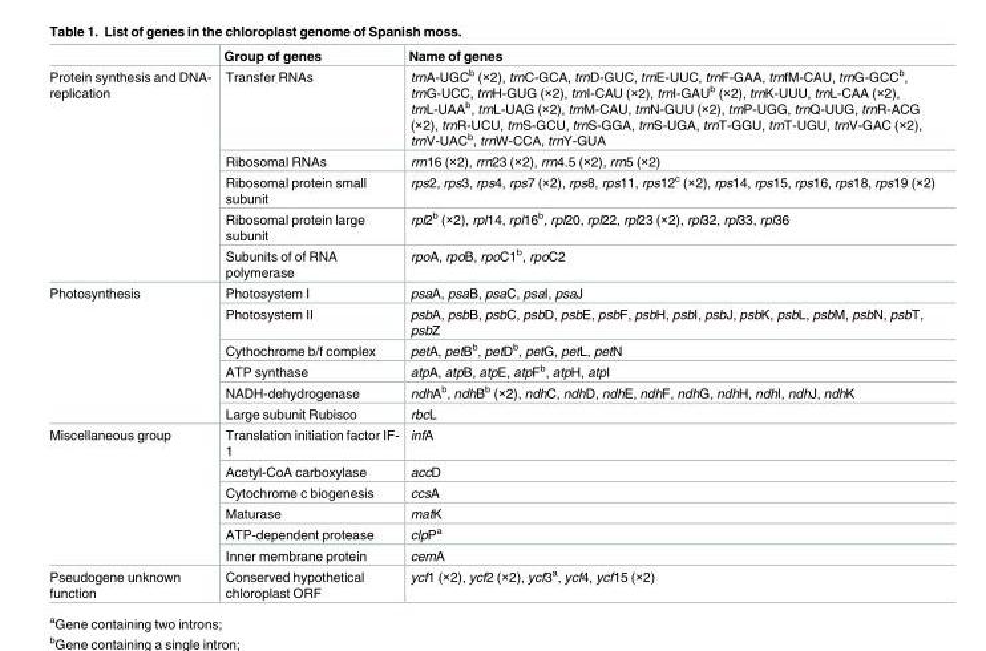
<table><thead><tr><td></td><td>Group of genes</td><td>Name of genes</td></tr></thead><tbody><tr><td rowspan="5">Protein synthesis and DNA- replication</td><td>Transfer RNAs</td><td>trnA-UGCb (×2), trnC-GCA, trnD-GUC, trnE-UUC, trnF-GAA, trnfM-CAU, trnG-GCCb, trnG-UCC, trnH-GUG (×2), trnI-CAU (×2), trnI-GAUb (×2), trnK-UUU, trnL-CAA (×2), trnL-UAAb, trnL-UAG (×2), trnM-CAU, trnN-GUU (×2), trnP-UGG, trnQ-UUG, trnR-ACG (×2), trnR-UCU, trnS-GCU, trnS-GGA, trnS-UGA, trnT-GGU, trnT-UGU, trnV-GAC (×2), trnV-UACb, trnW-CCA, trnY-GUA</td></tr><tr><td>Ribosomal RNAs</td><td>rrn16 (×2), rrn23 (×2), rrn4.5 (×2), rrn5 (×2)</td></tr><tr><td>Ribosomal protein small subunit</td><td>rps2, rps3, rps4, rps7 (×2), rps8, rps11, rps12<sup>c</sup> (×2), rps14, rps15, rps16, rps18, rps19 (×2)</td></tr><tr><td>Ribosomal protein large subunit</td><td>rpl2<sup>b</sup> (×2), rpl14, rpl16<sup>b</sup>, rpl20, rpl22, rpl23 (×2), rpl32, rpl33, rpl36</td></tr><tr><td>Subunits of of RNA polymerase</td><td>rpoA, rpoB, rpoC1<sup>b</sup>, rpoC2</td></tr><tr><td rowspan="6">Photosynthesis</td><td>Photosystem I</td><td>psaA, psaB, psaC, psaI, psaJ</td></tr><tr><td>Photosystem II</td><td>psbA, psbB, psbC, psbD, psbE, psbF, psbH, psbI, psbJ, psbK, psbL, psbM, psbN, psbT, psbZ</td></tr><tr><td>Cythochrome b/f complex</td><td>petA, petB<sup>b</sup>, petD<sup>b</sup>, petG, petL, petN</td></tr><tr><td>ATP synthase</td><td>atpA, atpB, atpE, atpF<sup>b</sup>, atpH, atpI</td></tr><tr><td>NADH-dehydrogenase</td><td>ndhA<sup>b</sup>, ndhB<sup>b</sup> (×2), ndhC, ndhD, ndhE, ndhF, ndhG, ndhH, ndhI, ndhJ, ndhK</td></tr><tr><td>Large subunit Rubisco</td><td>rbcL</td></tr><tr><td rowspan="6">Miscellaneous group</td><td>Translation initiation factor IF- 1</td><td>infA</td></tr><tr><td>Acetyl-CoA carboxylase</td><td>accD</td></tr><tr><td>Cytochrome c biogenesis</td><td>ccsA</td></tr><tr><td>Maturase</td><td>matK</td></tr><tr><td>ATP-dependent protease</td><td>clpP<sup>a</sup></td></tr><tr><td>Inner membrane protein</td><td>cemA</td></tr><tr><td>Pseudogene unknown function</td><td>Conserved hypothetical chloroplast ORF</td><td>ycf1 (×2), ycf2 (×2), ycf3<sup>a</sup>, ycf4, ycf15 (×2)</td></tr></tbody></table>